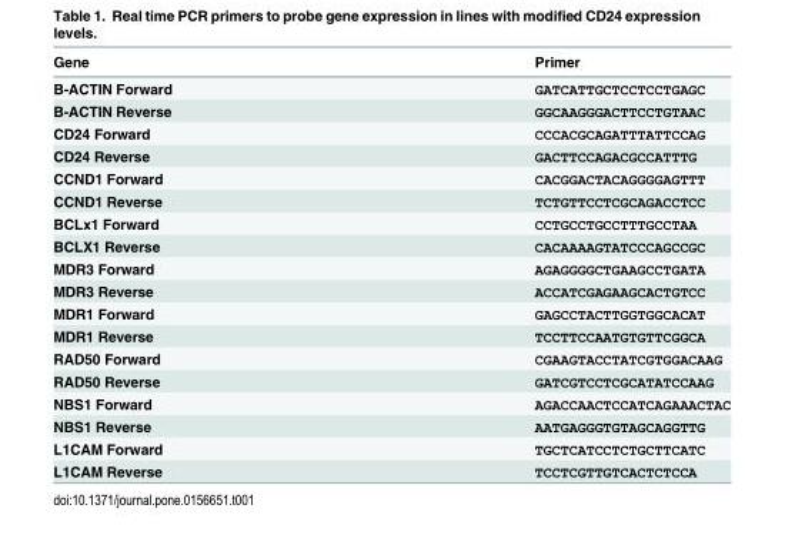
<table><thead><tr><td>Gene</td><td>Primer</td></tr></thead><tbody><tr><td>B-ACTIN Forward</td><td>GATCATTGCTCCTCCTGAGC</td></tr><tr><td>B-ACTIN Reverse</td><td>GGCAAGGGACTTCCTGTAAC</td></tr><tr><td>CD24 Forward</td><td>CCCACGCAGATTTATTCCAG</td></tr><tr><td>CD24 Reverse</td><td>GACTTCCAGACGCCATTTG</td></tr><tr><td>CCND1 Forward</td><td>CACGGACTACAGGGGAGTTT</td></tr><tr><td>CCND1 Reverse</td><td>TCTGTTCCTCGCAGACCTCC</td></tr><tr><td>BCLx1 Forward</td><td>CCTGCCTGCCTTTGCCTAA</td></tr><tr><td>BCLX1 Reverse</td><td>CACAAAAGTATCCCAGCCGC</td></tr><tr><td>MDR3 Forward</td><td>AGAGGGGCTGAAGCCTGATA</td></tr><tr><td>MDR3 Reverse</td><td>ACCATCGAGAAGCACTGTCC</td></tr><tr><td>MDR1 Forward</td><td>GAGCCTACTTGGTGGCACAT</td></tr><tr><td>MDR1 Reverse</td><td>TCCTTCCAATGTGTTCGGCA</td></tr><tr><td>RAD50 Forward</td><td>CGAAGTACCTATCGTGGACAAG</td></tr><tr><td>RAD50 Reverse</td><td>GATCGTCCTCGCATATCCAAG</td></tr><tr><td>NBS1 Forward</td><td>AGACCAACTCCATCAGAAACTAC</td></tr><tr><td>NBS1 Reverse</td><td>AATGAGGGTGTAGCAGGTTG</td></tr><tr><td>L1CAM Forward</td><td>TGCTCATCCTCTGCTTCATC</td></tr><tr><td>L1CAM Reverse</td><td>TCCTCGTTGTCACTCTCCA</td></tr></tbody></table>